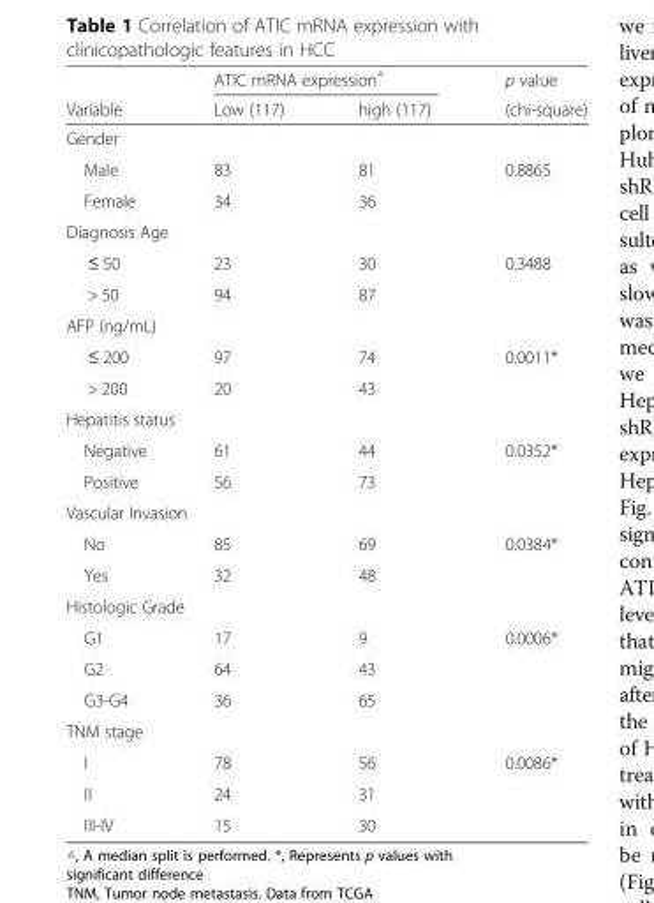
<table><thead><tr><td rowspan="2">Variable</td><td colspan="2">ATIC mRNA expression<sup>△</sup></td><td rowspan="2">p value (chi-square)</td></tr><tr><td>Low (117)</td><td>high (117)</td></tr></thead><tbody><tr><td colspan="4">Gender</td></tr><tr><td>Male</td><td>83</td><td>81</td><td>0.8865</td></tr><tr><td>Female</td><td>34</td><td>36</td><td></td></tr><tr><td colspan="4">Diagnosis Age</td></tr><tr><td>≤ 50</td><td>23</td><td>30</td><td>0.3488</td></tr><tr><td>&gt; 50</td><td>94</td><td>87</td><td></td></tr><tr><td colspan="4">AFP (ng/mL)</td></tr><tr><td>≤ 200</td><td>97</td><td>74</td><td>0.0011*</td></tr><tr><td>&gt; 200</td><td>20</td><td>43</td><td></td></tr><tr><td colspan="4">Hepatitis status</td></tr><tr><td>Negative</td><td>61</td><td>44</td><td>0.0352*</td></tr><tr><td>Positive</td><td>56</td><td>73</td><td></td></tr><tr><td colspan="4">Vascular Invasion</td></tr><tr><td>No</td><td>85</td><td>69</td><td>0.0384*</td></tr><tr><td>Yes</td><td>32</td><td>48</td><td></td></tr><tr><td colspan="4">Histologic Grade</td></tr><tr><td>G1</td><td>17</td><td>9</td><td>0.0006*</td></tr><tr><td>G2</td><td>64</td><td>43</td><td></td></tr><tr><td>G3-G4</td><td>36</td><td>65</td><td></td></tr><tr><td colspan="4">TNM stage</td></tr><tr><td>I</td><td>78</td><td>56</td><td>0.0086*</td></tr><tr><td>II</td><td>24</td><td>31</td><td></td></tr><tr><td>III-IV</td><td>15</td><td>30</td><td></td></tr></tbody></table>